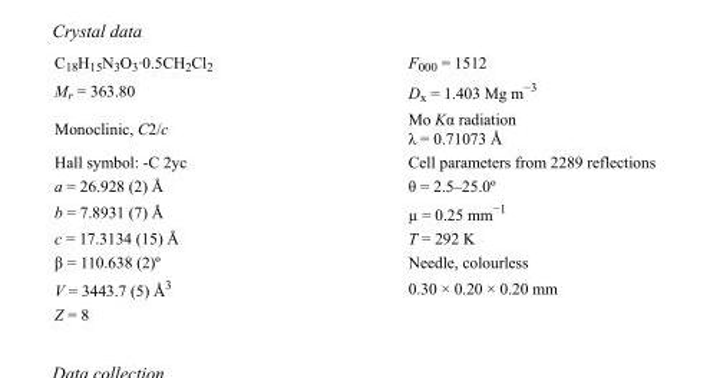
<table><tbody><tr><td>C<sub>18</sub>H<sub>15</sub>N<sub>3</sub>O<sub>3</sub>·0.5CH<sub>2</sub>Cl<sub>2</sub></td><td>F000 = 1512</td></tr><tr><td>M<sub>r</sub> = 363.80</td><td>D<sub>x</sub> = 1.403 Mg m<sup>−3</sup></td></tr><tr><td>Monoclinic, C2/c</td><td>Mo Kα radiation λ = 0.71073 Å</td></tr><tr><td>Hall symbol: -C 2yc</td><td>Cell parameters from 2289 reflections</td></tr><tr><td>a = 26.928 (2) Å</td><td>θ = 2.5–25.0º</td></tr><tr><td>b = 7.8931 (7) Å</td><td>µ = 0.25 mm<sup>−1</sup></td></tr><tr><td>c = 17.3134 (15) Å</td><td>T = 292 K</td></tr><tr><td>β = 110.638 (2)º</td><td>Needle, colourless</td></tr><tr><td>V = 3443.7 (5) Å<sup>3</sup></td><td>0.30 × 0.20 × 0.20 mm</td></tr><tr><td>Z = 8</td><td></td></tr></tbody></table>